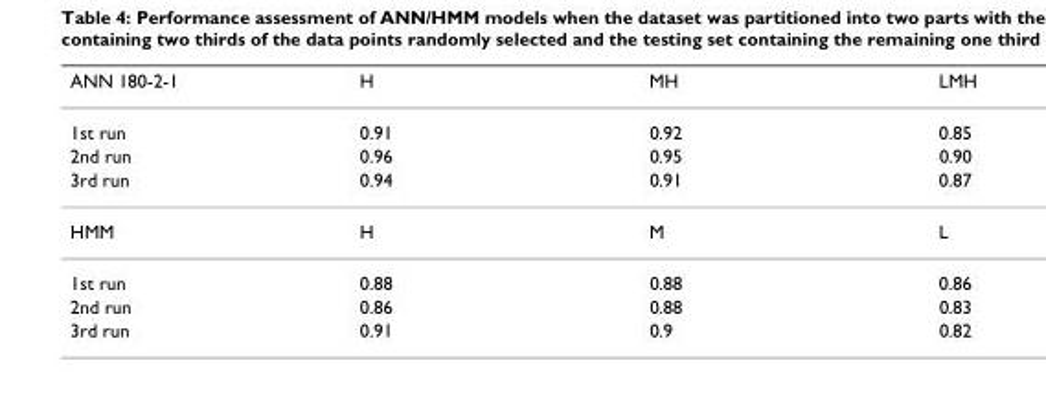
<table><thead><tr><td>ANN 180-2-1</td><td>H</td><td>MH</td><td>LMH</td></tr></thead><tbody><tr><td>1st run</td><td>0.91</td><td>0.92</td><td>0.85</td></tr><tr><td>2nd run</td><td>0.96</td><td>0.95</td><td>0.90</td></tr><tr><td>3rd run</td><td>0.94</td><td>0.91</td><td>0.87</td></tr><tr><td>HMM</td><td>H</td><td>M</td><td>L</td></tr><tr><td>1st run</td><td>0.88</td><td>0.88</td><td>0.86</td></tr><tr><td>2nd run</td><td>0.86</td><td>0.88</td><td>0.83</td></tr><tr><td>3rd run</td><td>0.91</td><td>0.9</td><td>0.82</td></tr></tbody></table>